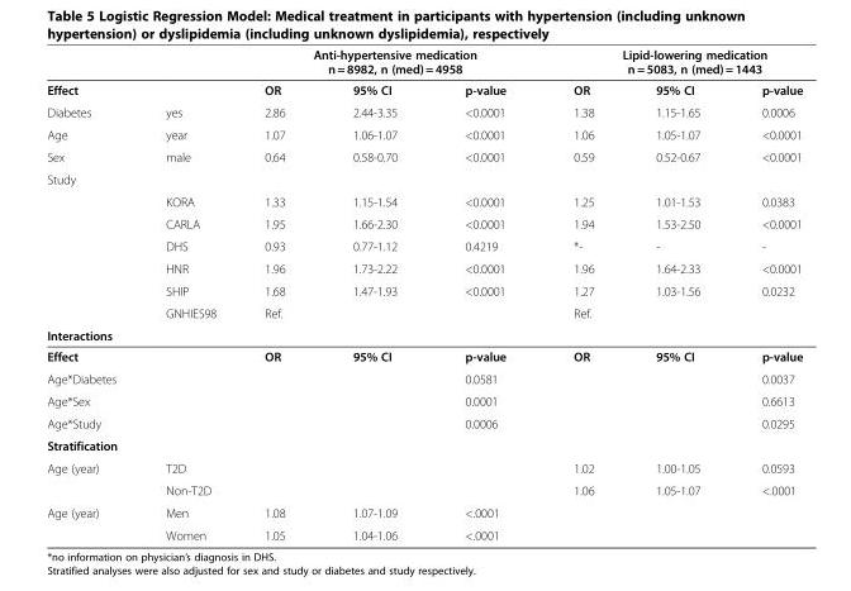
<table><thead><tr><td rowspan="2">Effect</td><td rowspan="2"></td><td colspan="3">Anti-hypertensive medication n = 8982, n (med) = 4958</td><td colspan="3">Lipid-lowering medication n = 5083, n (med) = 1443</td></tr><tr><td>OR</td><td>95% CI</td><td>p-value</td><td>OR</td><td>95% CI</td><td>p-value</td></tr></thead><tbody><tr><td>Diabetes</td><td>yes</td><td>2.86</td><td>2.44-3.35</td><td>&lt;0.0001</td><td>1.38</td><td>1.15-1.65</td><td>0.0006</td></tr><tr><td>Age</td><td>year</td><td>1.07</td><td>1.06-1.07</td><td>&lt;0.0001</td><td>1.06</td><td>1.05-1.07</td><td>&lt;0.0001</td></tr><tr><td>Sex</td><td>male</td><td>0.64</td><td>0.58-0.70</td><td>&lt;0.0001</td><td>0.59</td><td>0.52-0.67</td><td>&lt;0.0001</td></tr><tr><td colspan="8">Study</td></tr><tr><td></td><td>KORA</td><td>1.33</td><td>1.15-1.54</td><td>&lt;0.0001</td><td>1.25</td><td>1.01-1.53</td><td>0.0383</td></tr><tr><td></td><td>CARLA</td><td>1.95</td><td>1.66-2.30</td><td>&lt;0.0001</td><td>1.94</td><td>1.53-2.50</td><td>&lt;0.0001</td></tr><tr><td></td><td>DHS</td><td>0.93</td><td>0.77-1.12</td><td>0.4219</td><td>*-</td><td>-</td><td>-</td></tr><tr><td></td><td>HNR</td><td>1.96</td><td>1.73-2.22</td><td>&lt;0.0001</td><td>1.96</td><td>1.64-2.33</td><td>&lt;0.0001</td></tr><tr><td></td><td>SHIP</td><td>1.68</td><td>1.47-1.93</td><td>&lt;0.0001</td><td>1.27</td><td>1.03-1.56</td><td>0.0232</td></tr><tr><td></td><td>GNHIES98</td><td>Ref.</td><td></td><td></td><td>Ref.</td><td></td><td></td></tr><tr><td colspan="8">Interactions</td></tr><tr><td>Effect</td><td></td><td>OR</td><td>95% CI</td><td>p-value</td><td>OR</td><td>95% CI</td><td>p-value</td></tr><tr><td>Age*Diabetes</td><td></td><td></td><td></td><td>0.0581</td><td></td><td></td><td>0.0037</td></tr><tr><td>Age*Sex</td><td></td><td></td><td></td><td>0.0001</td><td></td><td></td><td>0.6613</td></tr><tr><td>Age*Study</td><td></td><td></td><td></td><td>0.0006</td><td></td><td></td><td>0.0295</td></tr><tr><td colspan="8">Stratification</td></tr><tr><td rowspan="2">Age (year)</td><td>T2D</td><td></td><td></td><td></td><td>1.02</td><td>1.00-1.05</td><td>0.0593</td></tr><tr><td>Non-T2D</td><td></td><td></td><td></td><td>1.06</td><td>1.05-1.07</td><td>&lt;.0001</td></tr><tr><td rowspan="2">Age (year)</td><td>Men</td><td>1.08</td><td>1.07-1.09</td><td>&lt;.0001</td><td></td><td></td><td></td></tr><tr><td>Women</td><td>1.05</td><td>1.04-1.06</td><td>&lt;.0001</td><td></td><td></td><td></td></tr></tbody></table>